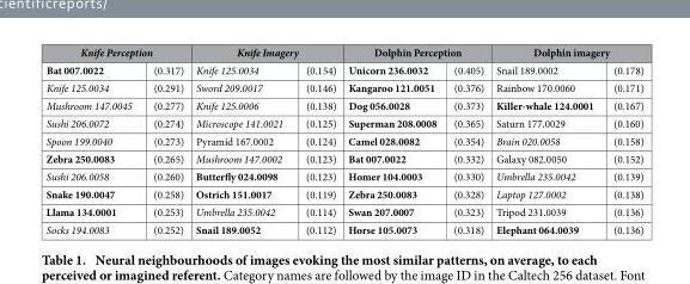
<table><thead><tr><td colspan="2">Knife Perception</td><td colspan="2">Knife Imagery</td><td colspan="2">Dolphin Perception</td><td colspan="2">Dolphin imagery</td></tr><tr><td>Bat 007.0022</td><td>(0.317)</td><td>Knife 125.0034</td><td>(0.154)</td><td>Unicorn 236.0032</td><td>(0.405)</td><td>Snail 189.0002</td><td>(0.178)</td></tr></thead><tbody><tr><td>Knife 125.0034</td><td>(0.291)</td><td>Sword 209.0017</td><td>(0.146)</td><td>Kangaroo 121.0051</td><td>(0.376)</td><td>Rainbow 170.0060</td><td>(0.171)</td></tr><tr><td>Mushroom 147.0045</td><td>(0.277)</td><td>Knife 125.0006</td><td>(0.138)</td><td>Dog 056.0028</td><td>(0.373)</td><td>Killer-whale 124.0001</td><td>(0.167)</td></tr><tr><td>Sushi 206.0072</td><td>(0.274)</td><td>Microscope 141.0021</td><td>(0.125)</td><td>Superman 208.0008</td><td>(0.365)</td><td>Saturn 177.0029</td><td>(0.160)</td></tr><tr><td>Spoon 199.0040</td><td>(0.273)</td><td>Pyramid 167.0002</td><td>(0.124)</td><td>Camel 028.0082</td><td>(0.354)</td><td>Brain 020.0058</td><td>(0.158)</td></tr><tr><td>Zebra 250.0083</td><td>(0.265)</td><td>Mushroom 147.0002</td><td>(0.123)</td><td>Bat 007.0022</td><td>(0.332)</td><td>Galaxy 082.0050</td><td>(0.152)</td></tr><tr><td>Sushi 206.0058</td><td>(0.260)</td><td>Butterfly 024.0098</td><td>(0.123)</td><td>Homer 104.0003</td><td>(0.330)</td><td>Umbrella 235.0042</td><td>(0.139)</td></tr><tr><td>Snake 190.0047</td><td>(0.258)</td><td>Ostrich 151.0017</td><td>(0.119)</td><td>Zebra 250.0083</td><td>(0.328)</td><td>Laptop 127.0002</td><td>(0.138)</td></tr><tr><td>Llama 134.0001</td><td>(0.253)</td><td>Umbrella 235.0042</td><td>(0.114)</td><td>Swan 207.0007</td><td>(0.323)</td><td>Tripod 231.0039</td><td>(0.136)</td></tr><tr><td>Socks 194.0083</td><td>(0.252)</td><td>Snail 189.0052</td><td>(0.112)</td><td>Horse 105.0073</td><td>(0.318)</td><td>Elephant 064.0039</td><td>(0.136)</td></tr></tbody></table>